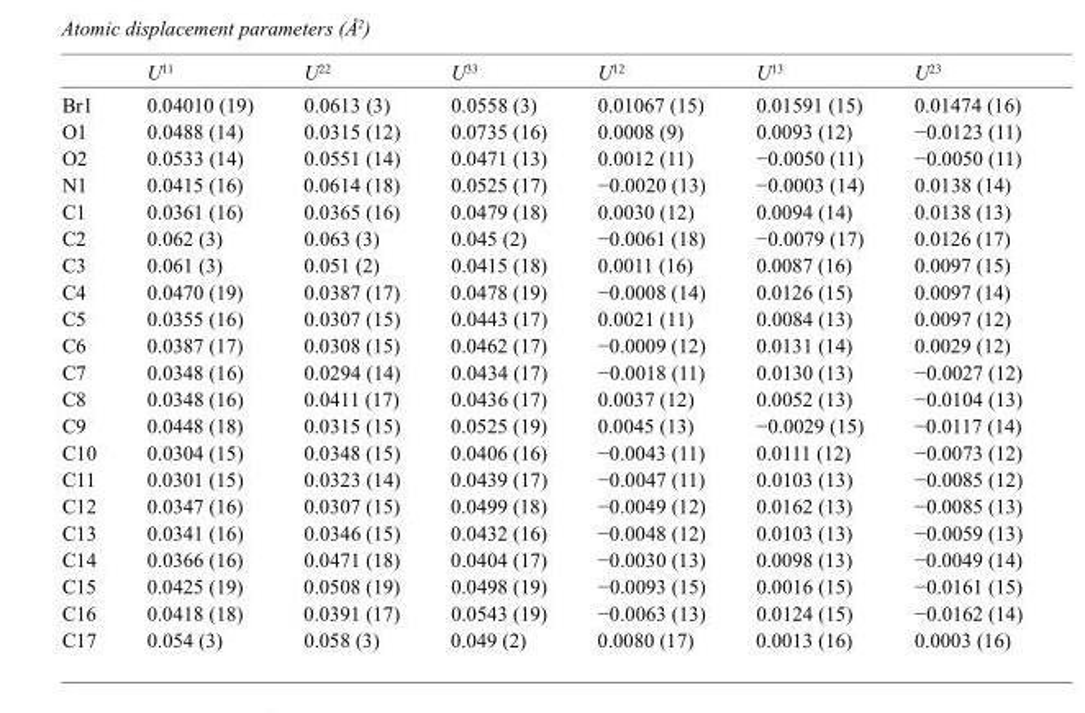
<table><thead><tr><td></td><td>U<sup>11</sup></td><td>U<sup>22</sup></td><td>U<sup>33</sup></td><td>U<sup>12</sup></td><td>U<sup>13</sup></td><td>U<sup>23</sup></td></tr></thead><tbody><tr><td>Br1</td><td>0.04010 (19)</td><td>0.0613 (3)</td><td>0.0558 (3)</td><td>0.01067 (15)</td><td>0.01591 (15)</td><td>0.01474 (16)</td></tr><tr><td>O1</td><td>0.0488 (14)</td><td>0.0315 (12)</td><td>0.0735 (16)</td><td>0.0008 (9)</td><td>0.0093 (12)</td><td>−0.0123 (11)</td></tr><tr><td>O2</td><td>0.0533 (14)</td><td>0.0551 (14)</td><td>0.0471 (13)</td><td>0.0012 (11)</td><td>−0.0050 (11)</td><td>−0.0050 (11)</td></tr><tr><td>N1</td><td>0.0415 (16)</td><td>0.0614 (18)</td><td>0.0525 (17)</td><td>−0.0020 (13)</td><td>−0.0003 (14)</td><td>0.0138 (14)</td></tr><tr><td>C1</td><td>0.0361 (16)</td><td>0.0365 (16)</td><td>0.0479 (18)</td><td>0.0030 (12)</td><td>0.0094 (14)</td><td>0.0138 (13)</td></tr><tr><td>C2</td><td>0.062 (3)</td><td>0.063 (3)</td><td>0.045 (2)</td><td>−0.0061 (18)</td><td>−0.0079 (17)</td><td>0.0126 (17)</td></tr><tr><td>C3</td><td>0.061 (3)</td><td>0.051 (2)</td><td>0.0415 (18)</td><td>0.0011 (16)</td><td>0.0087 (16)</td><td>0.0097 (15)</td></tr><tr><td>C4</td><td>0.0470 (19)</td><td>0.0387 (17)</td><td>0.0478 (19)</td><td>−0.0008 (14)</td><td>0.0126 (15)</td><td>0.0097 (14)</td></tr><tr><td>C5</td><td>0.0355 (16)</td><td>0.0307 (15)</td><td>0.0443 (17)</td><td>0.0021 (11)</td><td>0.0084 (13)</td><td>0.0097 (12)</td></tr><tr><td>C6</td><td>0.0387 (17)</td><td>0.0308 (15)</td><td>0.0462 (17)</td><td>−0.0009 (12)</td><td>0.0131 (14)</td><td>0.0029 (12)</td></tr><tr><td>C7</td><td>0.0348 (16)</td><td>0.0294 (14)</td><td>0.0434 (17)</td><td>−0.0018 (11)</td><td>0.0130 (13)</td><td>−0.0027 (12)</td></tr><tr><td>C8</td><td>0.0348 (16)</td><td>0.0411 (17)</td><td>0.0436 (17)</td><td>0.0037 (12)</td><td>0.0052 (13)</td><td>−0.0104 (13)</td></tr><tr><td>C9</td><td>0.0448 (18)</td><td>0.0315 (15)</td><td>0.0525 (19)</td><td>0.0045 (13)</td><td>−0.0029 (15)</td><td>−0.0117 (14)</td></tr><tr><td>C10</td><td>0.0304 (15)</td><td>0.0348 (15)</td><td>0.0406 (16)</td><td>−0.0043 (11)</td><td>0.0111 (12)</td><td>−0.0073 (12)</td></tr><tr><td>C11</td><td>0.0301 (15)</td><td>0.0323 (14)</td><td>0.0439 (17)</td><td>−0.0047 (11)</td><td>0.0103 (13)</td><td>−0.0085 (12)</td></tr><tr><td>C12</td><td>0.0347 (16)</td><td>0.0307 (15)</td><td>0.0499 (18)</td><td>−0.0049 (12)</td><td>0.0162 (13)</td><td>−0.0085 (13)</td></tr><tr><td>C13</td><td>0.0341 (16)</td><td>0.0346 (15)</td><td>0.0432 (16)</td><td>−0.0048 (12)</td><td>0.0103 (13)</td><td>−0.0059 (13)</td></tr><tr><td>C14</td><td>0.0366 (16)</td><td>0.0471 (18)</td><td>0.0404 (17)</td><td>−0.0030 (13)</td><td>0.0098 (13)</td><td>−0.0049 (14)</td></tr><tr><td>C15</td><td>0.0425 (19)</td><td>0.0508 (19)</td><td>0.0498 (19)</td><td>−0.0093 (15)</td><td>0.0016 (15)</td><td>−0.0161 (15)</td></tr><tr><td>C16</td><td>0.0418 (18)</td><td>0.0391 (17)</td><td>0.0543 (19)</td><td>−0.0063 (13)</td><td>0.0124 (15)</td><td>−0.0162 (14)</td></tr><tr><td>C17</td><td>0.054 (3)</td><td>0.058 (3)</td><td>0.049 (2)</td><td>0.0080 (17)</td><td>0.0013 (16)</td><td>0.0003 (16)</td></tr></tbody></table>